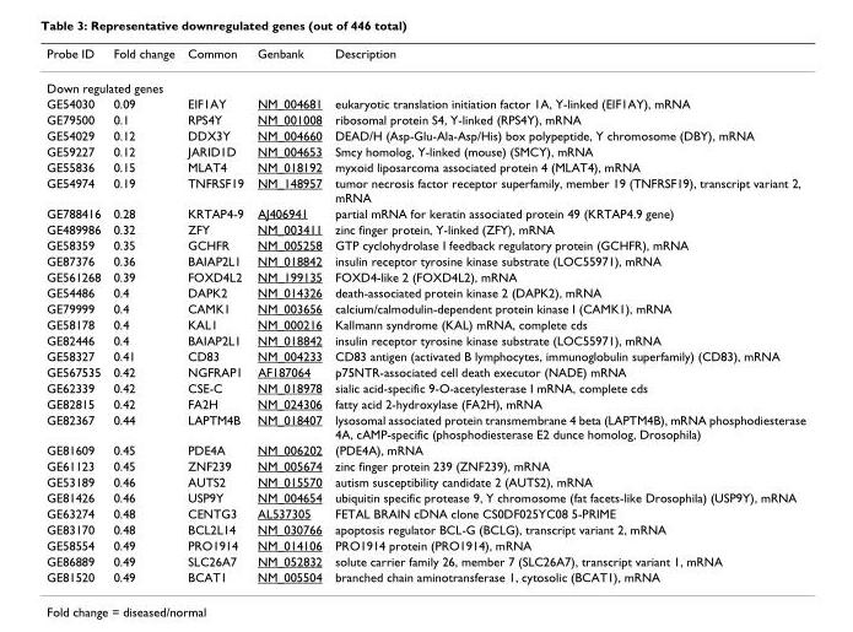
<table><thead><tr><td>Probe ID</td><td>Fold change</td><td>Common</td><td>Genbank</td><td>Description</td></tr></thead><tbody><tr><td colspan="5">Down regulated genes</td></tr><tr><td>GE54030</td><td>0.09</td><td>EIF1AY</td><td>NM_004681</td><td>eukaryotic translation initiation factor 1A, Y-linked (EIF1AY), mRNA</td></tr><tr><td>GE79500</td><td>0.1</td><td>RPS4Y</td><td>NM_001008</td><td>ribosomal protein S4, Y-linked (RPS4Y), mRNA</td></tr><tr><td>GE54029</td><td>0.12</td><td>DDX3Y</td><td>NM_004660</td><td>DEAD/H (Asp-Glu-Ala-Asp/His) box polypeptide, Y chromosome (DBY), mRNA</td></tr><tr><td>GE59227</td><td>0.12</td><td>JARID1D</td><td>NM_004653</td><td>Smcy homolog, Y-linked (mouse) (SMCY), mRNA</td></tr><tr><td>GE55836</td><td>0.15</td><td>MLAT4</td><td>NM_018192</td><td>myxoid liposarcoma associated protein 4 (MLAT4), mRNA</td></tr><tr><td>GE54974</td><td>0.19</td><td>TNFRSF19</td><td>NM_148957</td><td>tumor necrosis factor receptor superfamily, member 19 (TNFRSF19), transcript variant 2, mRNA</td></tr><tr><td>GE788416</td><td>0.28</td><td>KRTAP4-9</td><td>AJ406941</td><td>partial mRNA for keratin associated protein 49 (KRTAP4.9 gene)</td></tr><tr><td>GE489986</td><td>0.32</td><td>ZFY</td><td>NM_003411</td><td>zinc finger protein, Y-linked (ZFY), mRNA</td></tr><tr><td>GE58359</td><td>0.35</td><td>GCHFR</td><td>NM_005258</td><td>GTP cyclohydrolase I feedback regulatory protein (GCHFR), mRNA</td></tr><tr><td>GE87376</td><td>0.36</td><td>BAIAP2L1</td><td>NM_018842</td><td>insulin receptor tyrosine kinase substrate (LOC55971), mRNA</td></tr><tr><td>GE561268</td><td>0.39</td><td>FOXD4L2</td><td>NM_199135</td><td>FOXD4-like 2 (FOXD4L2), mRNA</td></tr><tr><td>GE54486</td><td>0.4</td><td>DAPK2</td><td>NM_014326</td><td>death-associated protein kinase 2 (DAPK2), mRNA</td></tr><tr><td>GE79999</td><td>0.4</td><td>CAMK1</td><td>NM_003656</td><td>calcium/calmodulin-dependent protein kinase I (CAMK1), mRNA</td></tr><tr><td>GE58178</td><td>0.4</td><td>KAL1</td><td>NM_000216</td><td>Kallmann syndrome (KAL) mRNA, complete cds</td></tr><tr><td>GE82446</td><td>0.4</td><td>BAIAP2L1</td><td>NM_018842</td><td>insulin receptor tyrosine kinase substrate (LOC55971), mRNA</td></tr><tr><td>GE58327</td><td>0.41</td><td>CD83</td><td>NM_004233</td><td>CD83 antigen (activated B lymphocytes, immunoglobulin superfamily) (CD83), mRNA</td></tr><tr><td>GE567535</td><td>0.42</td><td>NGFRAP1</td><td>AF187064</td><td>p75NTR-associated cell death executor (NADE) mRNA</td></tr><tr><td>GE62339</td><td>0.42</td><td>CSE-C</td><td>NM_018978</td><td>sialic acid-specific 9-O-acetylesterase I mRNA, complete cds</td></tr><tr><td>GE82815</td><td>0.42</td><td>FA2H</td><td>NM_024306</td><td>fatty acid 2-hydroxylase (FA2H), mRNA</td></tr><tr><td>GE82367</td><td>0.44</td><td>LAPTM4B</td><td>NM_018407</td><td>lysosomal associated protein transmembrane 4 beta (LAPTM4B), mRNA phosphodiesterase 4A, cAMP-specific (phosphodiesterase E2 dunce homolog, Drosophila)</td></tr><tr><td>GE81609</td><td>0.45</td><td>PDE4A</td><td>NM_006202</td><td>(PDE4A), mRNA</td></tr><tr><td>GE61123</td><td>0.45</td><td>ZNF239</td><td>NM_005674</td><td>zinc finger protein 239 (ZNF239), mRNA</td></tr><tr><td>GE53189</td><td>0.46</td><td>AUTS2</td><td>NM_015570</td><td>autism susceptibility candidate 2 (AUTS2), mRNA</td></tr><tr><td>GE81426</td><td>0.46</td><td>USP9Y</td><td>NM_004654</td><td>ubiquitin specific protease 9, Y chromosome (fat facets-like Drosophila) (USP9Y), mRNA</td></tr><tr><td>GE63274</td><td>0.48</td><td>CENTG3</td><td>AL537305</td><td>FETAL BRAIN cDNA clone CS0DF025YC08 5-PRIME</td></tr><tr><td>GE83170</td><td>0.48</td><td>BCL2L14</td><td>NM_030766</td><td>apoptosis regulator BCL-G (BCLG), transcript variant 2, mRNA</td></tr><tr><td>GE58554</td><td>0.49</td><td>PRO1914</td><td>NM_014106</td><td>PRO1914 protein (PRO1914), mRNA</td></tr><tr><td>GE86889</td><td>0.49</td><td>SLC26A7</td><td>NM_052832</td><td>solute carrier family 26, member 7 (SLC26A7), transcript variant 1, mRNA</td></tr><tr><td>GE81520</td><td>0.49</td><td>BCAT1</td><td>NM_005504</td><td>branched chain aminotransferase 1, cytosolic (BCAT1), mRNA</td></tr></tbody></table>